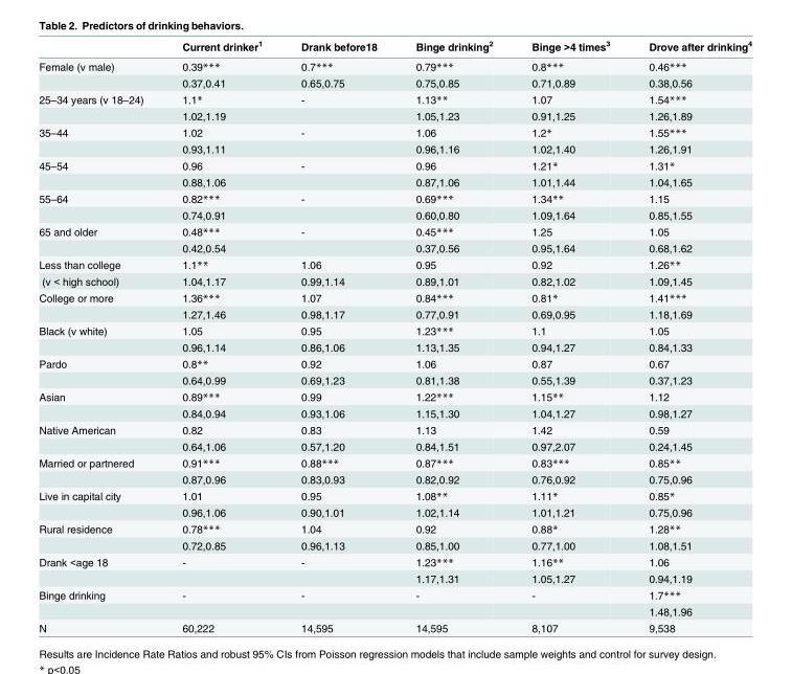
<table><thead><tr><td></td><td>Current drinker<sup>1</sup></td><td>Drank before18</td><td>Binge drinking<sup>2</sup></td><td>Binge &gt;4 times<sup>3</sup></td><td>Drove after drinking<sup>4</sup></td></tr></thead><tbody><tr><td rowspan="2">Female (v male)</td><td>0.39***</td><td>0.7***</td><td>0.79***</td><td>0.8***</td><td>0.46***</td></tr><tr><td>0.37,0.41</td><td>0.65,0.75</td><td>0.75,0.85</td><td>0.71,0.89</td><td>0.38,0.56</td></tr><tr><td rowspan="2">25–34 years (v 18–24)</td><td>1.1*</td><td>-</td><td>1.13**</td><td>1.07</td><td>1.54***</td></tr><tr><td>1.02,1.19</td><td></td><td>1.05,1.23</td><td>0.91,1.25</td><td>1.26,1.89</td></tr><tr><td rowspan="2">35–44</td><td>1.02</td><td>-</td><td>1.06</td><td>1.2*</td><td>1.55***</td></tr><tr><td>0.93,1.11</td><td></td><td>0.96,1.16</td><td>1.02,1.40</td><td>1.26,1.91</td></tr><tr><td rowspan="2">45–54</td><td>0.96</td><td>-</td><td>0.96</td><td>1.21*</td><td>1.31*</td></tr><tr><td>0.88,1.06</td><td></td><td>0.87,1.06</td><td>1.01,1.44</td><td>1.04,1.65</td></tr><tr><td rowspan="2">55–64</td><td>0.82***</td><td>-</td><td>0.69***</td><td>1.34**</td><td>1.15</td></tr><tr><td>0.74,0.91</td><td></td><td>0.60,0.80</td><td>1.09,1.64</td><td>0.85,1.55</td></tr><tr><td rowspan="2">65 and older</td><td>0.48***</td><td>-</td><td>0.45***</td><td>1.25</td><td>1.05</td></tr><tr><td>0.42,0.54</td><td></td><td>0.37,0.56</td><td>0.95,1.64</td><td>0.68,1.62</td></tr><tr><td>Less than college</td><td>1.1**</td><td>1.06</td><td>0.95</td><td>0.92</td><td>1.26**</td></tr><tr><td>(v &lt; high school)</td><td>1.04,1.17</td><td>0.99,1.14</td><td>0.89,1.01</td><td>0.82,1.02</td><td>1.09,1.45</td></tr><tr><td rowspan="2">College or more</td><td>1.36***</td><td>1.07</td><td>0.84***</td><td>0.81*</td><td>1.41***</td></tr><tr><td>1.27,1.46</td><td>0.98,1.17</td><td>0.77,0.91</td><td>0.69,0.95</td><td>1.18,1.69</td></tr><tr><td rowspan="2">Black (v white)</td><td>1.05</td><td>0.95</td><td>1.23***</td><td>1.1</td><td>1.05</td></tr><tr><td>0.96,1.14</td><td>0.86,1.06</td><td>1.13,1.35</td><td>0.94,1.27</td><td>0.84,1.33</td></tr><tr><td rowspan="2">Pardo</td><td>0.8**</td><td>0.92</td><td>1.06</td><td>0.87</td><td>0.67</td></tr><tr><td>0.64,0.99</td><td>0.69,1.23</td><td>0.81,1.38</td><td>0.55,1.39</td><td>0.37,1.23</td></tr><tr><td rowspan="2">Asian</td><td>0.89***</td><td>0.99</td><td>1.22***</td><td>1.15**</td><td>1.12</td></tr><tr><td>0.84,0.94</td><td>0.93,1.06</td><td>1.15,1.30</td><td>1.04,1.27</td><td>0.98,1.27</td></tr><tr><td rowspan="2">Native American</td><td>0.82</td><td>0.83</td><td>1.13</td><td>1.42</td><td>0.59</td></tr><tr><td>0.64,1.06</td><td>0.57,1.20</td><td>0.84,1.51</td><td>0.97,2.07</td><td>0.24,1.45</td></tr><tr><td rowspan="2">Married or partnered</td><td>0.91***</td><td>0.88***</td><td>0.87***</td><td>0.83***</td><td>0.85**</td></tr><tr><td>0.87,0.96</td><td>0.83,0.93</td><td>0.82,0.92</td><td>0.76,0.92</td><td>0.75,0.96</td></tr><tr><td rowspan="2">Live in capital city</td><td>1.01</td><td>0.95</td><td>1.08**</td><td>1.11*</td><td>0.85*</td></tr><tr><td>0.96,1.06</td><td>0.90,1.01</td><td>1.02,1.14</td><td>1.01,1.21</td><td>0.75,0.96</td></tr><tr><td rowspan="2">Rural residence</td><td>0.78***</td><td>1.04</td><td>0.92</td><td>0.88*</td><td>1.28**</td></tr><tr><td>0.72,0.85</td><td>0.96,1.13</td><td>0.85,1.00</td><td>0.77,1.00</td><td>1.08,1.51</td></tr><tr><td rowspan="2">Drank &lt;age 18</td><td>-</td><td>-</td><td>1.23***</td><td>1.16**</td><td>1.06</td></tr><tr><td></td><td></td><td>1.17,1.31</td><td>1.05,1.27</td><td>0.94,1.19</td></tr><tr><td rowspan="2">Binge drinking</td><td>-</td><td>-</td><td>-</td><td>-</td><td>1.7***</td></tr><tr><td></td><td></td><td></td><td></td><td>1.48,1.96</td></tr><tr><td>N</td><td>60,222</td><td>14,595</td><td>14,595</td><td>8,107</td><td>9,538</td></tr></tbody></table>